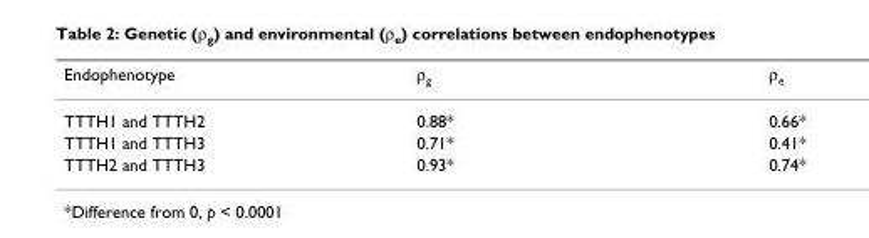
<table><thead><tr><td>Endophenotype</td><td>ρg</td><td>ρe</td></tr></thead><tbody><tr><td>TTTH1 and TTTH2</td><td>0.88*</td><td>0.66*</td></tr><tr><td>TTTH1 and TTTH3</td><td>0.71*</td><td>0.41*</td></tr><tr><td>TTTH2 and TTTH3</td><td>0.93*</td><td>0.74*</td></tr></tbody></table>